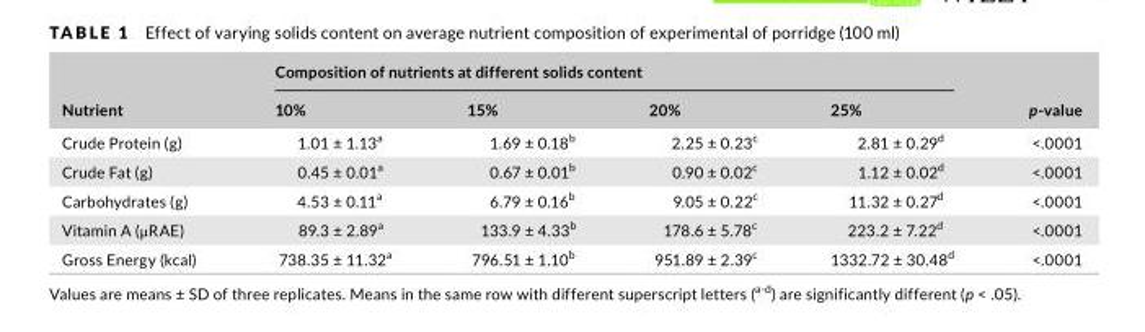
<table><thead><tr><td rowspan="2">Nutrient</td><td colspan="4">Composition of nutrients at different solids content</td><td rowspan="2">p- value</td></tr><tr><td>10%</td><td>15%</td><td>20%</td><td>25%</td></tr></thead><tbody><tr><td>Crude Protein (g)</td><td>1.01 ± 1.13<sup>a</sup></td><td>1.69 ± 0.18<sup>b</sup></td><td>2.25 ± 0.23<sup>c</sup></td><td>2.81 ± 0.29<sup>d</sup></td><td>&lt;.0001</td></tr><tr><td>Crude Fat (g)</td><td>0.45 ± 0.01<sup>a</sup></td><td>0.67 ± 0.01<sup>b</sup></td><td>0.90 ± 0.02<sup>c</sup></td><td>1.12 ± 0.02<sup>d</sup></td><td>&lt;.0001</td></tr><tr><td>Carbohydrates (g)</td><td>4.53 ± 0.11<sup>a</sup></td><td>6.79 ± 0.16<sup>b</sup></td><td>9.05 ± 0.22<sup>c</sup></td><td>11.32 ± 0.27<sup>d</sup></td><td>&lt;.0001</td></tr><tr><td>Vitamin A (μRAE)</td><td>89.3 ± 2.89<sup>a</sup></td><td>133.9 ± 4.33<sup>b</sup></td><td>178.6 ± 5.78<sup>c</sup></td><td>223.2 ± 7.22<sup>d</sup></td><td>&lt;.0001</td></tr><tr><td>Gross Energy (kcal)</td><td>738.35 ± 11.32<sup>a</sup></td><td>796.51 ± 1.10<sup>b</sup></td><td>951.89 ± 2.39<sup>c</sup></td><td>1332.72 ± 30.48<sup>d</sup></td><td>&lt;.0001</td></tr></tbody></table>